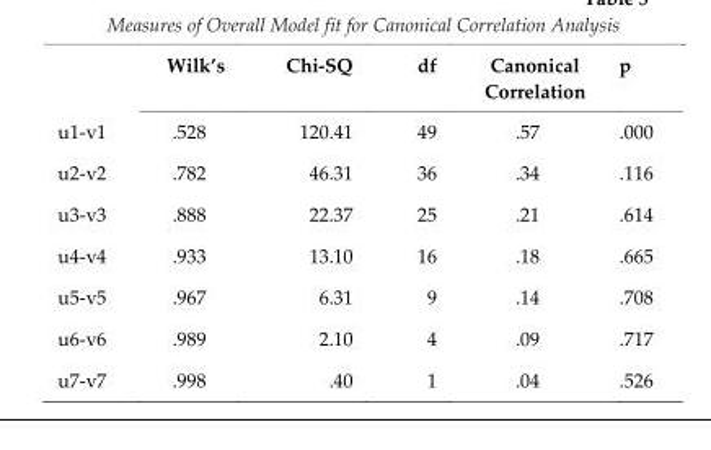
<table><thead><tr><td></td><td>Wilk’s</td><td>Chi-SQ</td><td>df</td><td>Canonical Correlation</td><td>p</td></tr></thead><tbody><tr><td>u1-v1</td><td>.528</td><td>120.41</td><td>49</td><td>.57</td><td>.000</td></tr><tr><td>u2-v2</td><td>.782</td><td>46.31</td><td>36</td><td>.34</td><td>.116</td></tr><tr><td>u3-v3</td><td>.888</td><td>22.37</td><td>25</td><td>.21</td><td>.614</td></tr><tr><td>u4-v4</td><td>.933</td><td>13.10</td><td>16</td><td>.18</td><td>.665</td></tr><tr><td>u5-v5</td><td>.967</td><td>6.31</td><td>9</td><td>.14</td><td>.708</td></tr><tr><td>u6-v6</td><td>.989</td><td>2.10</td><td>4</td><td>.09</td><td>.717</td></tr><tr><td>u7-v7</td><td>.998</td><td>.40</td><td>1</td><td>.04</td><td>.526</td></tr></tbody></table>